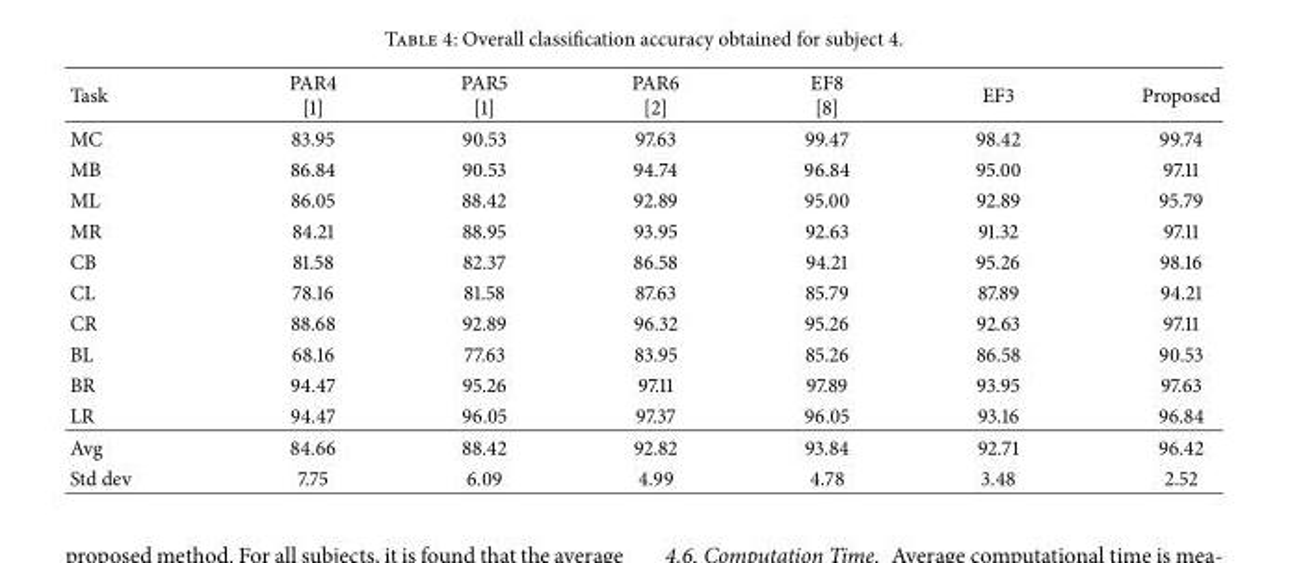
<table><thead><tr><td>Task</td><td>PAR4 [1]</td><td>PAR5 [1]</td><td>PAR6 [2]</td><td>EF8 [8]</td><td>EF3</td><td>Proposed</td></tr></thead><tbody><tr><td>MC</td><td>83.95</td><td>90.53</td><td>97.63</td><td>99.47</td><td>98.42</td><td>99.74</td></tr><tr><td>MB</td><td>86.84</td><td>90.53</td><td>94.74</td><td>96.84</td><td>95.00</td><td>97.11</td></tr><tr><td>ML</td><td>86.05</td><td>88.42</td><td>92.89</td><td>95.00</td><td>92.89</td><td>95.79</td></tr><tr><td>MR</td><td>84.21</td><td>88.95</td><td>93.95</td><td>92.63</td><td>91.32</td><td>97.11</td></tr><tr><td>CB</td><td>81.58</td><td>82.37</td><td>86.58</td><td>94.21</td><td>95.26</td><td>98.16</td></tr><tr><td>CL</td><td>78.16</td><td>81.58</td><td>87.63</td><td>85.79</td><td>87.89</td><td>94.21</td></tr><tr><td>CR</td><td>88.68</td><td>92.89</td><td>96.32</td><td>95.26</td><td>92.63</td><td>97.11</td></tr><tr><td>BL</td><td>68.16</td><td>77.63</td><td>83.95</td><td>85.26</td><td>86.58</td><td>90.53</td></tr><tr><td>BR</td><td>94.47</td><td>95.26</td><td>97.11</td><td>97.89</td><td>93.95</td><td>97.63</td></tr><tr><td>LR</td><td>94.47</td><td>96.05</td><td>97.37</td><td>96.05</td><td>93.16</td><td>96.84</td></tr><tr><td>Avg</td><td>84.66</td><td>88.42</td><td>92.82</td><td>93.84</td><td>92.71</td><td>96.42</td></tr><tr><td>Std dev</td><td>7.75</td><td>6.09</td><td>4.99</td><td>4.78</td><td>3.48</td><td>2.52</td></tr></tbody></table>